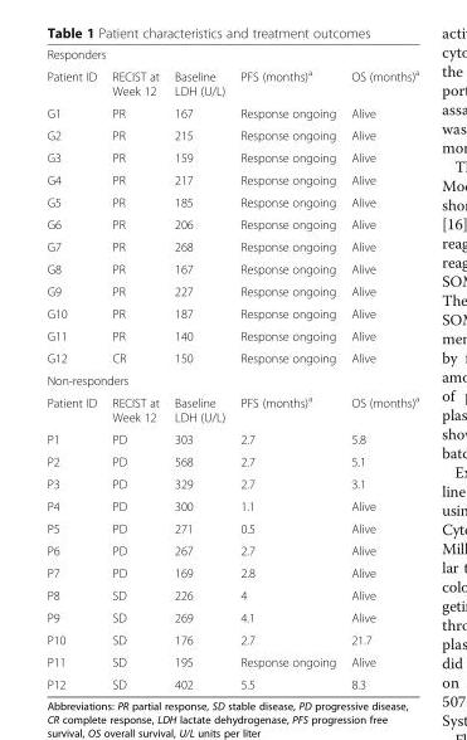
<table><tbody><tr><td colspan="5">Responders</td></tr><tr><td>Patient ID</td><td>RECIST at Week 12</td><td>Baseline LDH (U/L)</td><td>PFS (months)<sup>a</sup></td><td>OS (months)<sup>a</sup></td></tr><tr><td>G1</td><td>PR</td><td>167</td><td>Response ongoing</td><td>Alive</td></tr><tr><td>G2</td><td>PR</td><td>215</td><td>Response ongoing</td><td>Alive</td></tr><tr><td>G3</td><td>PR</td><td>159</td><td>Response ongoing</td><td>Alive</td></tr><tr><td>G4</td><td>PR</td><td>217</td><td>Response ongoing</td><td>Alive</td></tr><tr><td>G5</td><td>PR</td><td>185</td><td>Response ongoing</td><td>Alive</td></tr><tr><td>G6</td><td>PR</td><td>206</td><td>Response ongoing</td><td>Alive</td></tr><tr><td>G7</td><td>PR</td><td>268</td><td>Response ongoing</td><td>Alive</td></tr><tr><td>G8</td><td>PR</td><td>167</td><td>Response ongoing</td><td>Alive</td></tr><tr><td>G9</td><td>PR</td><td>227</td><td>Response ongoing</td><td>Alive</td></tr><tr><td>G10</td><td>PR</td><td>187</td><td>Response ongoing</td><td>Alive</td></tr><tr><td>G11</td><td>PR</td><td>140</td><td>Response ongoing</td><td>Alive</td></tr><tr><td>G12</td><td>CR</td><td>150</td><td>Response ongoing</td><td>Alive</td></tr><tr><td colspan="5">Non-responders</td></tr><tr><td>Patient ID</td><td>RECIST at Week 12</td><td>Baseline LDH (U/L)</td><td>PFS (months)<sup>a</sup></td><td>OS (months)<sup>a</sup></td></tr><tr><td>P1</td><td>PD</td><td>303</td><td>2.7</td><td>5.8</td></tr><tr><td>P2</td><td>PD</td><td>568</td><td>2.7</td><td>5.1</td></tr><tr><td>P3</td><td>PD</td><td>329</td><td>2.7</td><td>3.1</td></tr><tr><td>P4</td><td>PD</td><td>300</td><td>1.1</td><td>Alive</td></tr><tr><td>P5</td><td>PD</td><td>271</td><td>0.5</td><td>Alive</td></tr><tr><td>P6</td><td>PD</td><td>267</td><td>2.7</td><td>Alive</td></tr><tr><td>P7</td><td>PD</td><td>169</td><td>2.8</td><td>Alive</td></tr><tr><td>P8</td><td>SD</td><td>226</td><td>4</td><td>Alive</td></tr><tr><td>P9</td><td>SD</td><td>269</td><td>4.1</td><td>Alive</td></tr><tr><td>P10</td><td>SD</td><td>176</td><td>2.7</td><td>21.7</td></tr><tr><td>P11</td><td>SD</td><td>195</td><td>Response ongoing</td><td>Alive</td></tr><tr><td>P12</td><td>SD</td><td>402</td><td>5.5</td><td>8.3</td></tr></tbody></table>